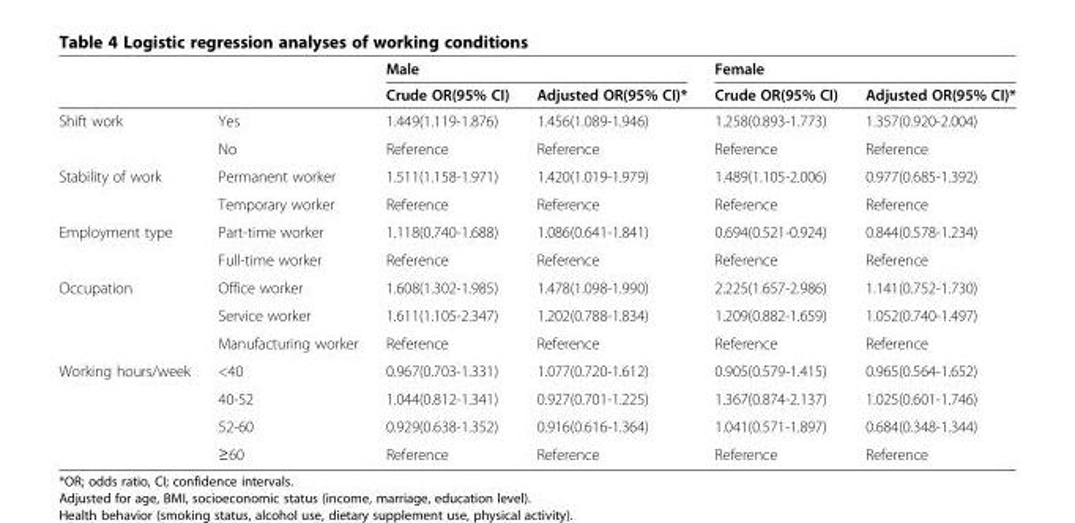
<table><thead><tr><td rowspan="2"></td><td rowspan="2"></td><td colspan="2">Male</td><td colspan="2">Female</td></tr><tr><td>Crude OR(95% CI)</td><td>Adjusted OR(95% CI)*</td><td>Crude OR(95% CI)</td><td>Adjusted OR(95% CI)*</td></tr></thead><tbody><tr><td rowspan="2">Shift work</td><td>Yes</td><td>1.449(1.119-1.876)</td><td>1.456(1.089-1.946)</td><td>1.258(0.893-1.773)</td><td>1.357(0.920-2.004)</td></tr><tr><td>No</td><td>Reference</td><td>Reference</td><td>Reference</td><td>Reference</td></tr><tr><td rowspan="2">Stability of work</td><td>Permanent worker</td><td>1.511(1.158-1.971)</td><td>1.420(1.019-1.979)</td><td>1.489(1.105-2.006)</td><td>0.977(0.685-1.392)</td></tr><tr><td>Temporary worker</td><td>Reference</td><td>Reference</td><td>Reference</td><td>Reference</td></tr><tr><td rowspan="2">Employment type</td><td>Part-time worker</td><td>1.118(0.740-1.688)</td><td>1.086(0.641-1.841)</td><td>0.694(0.521-0.924)</td><td>0.844(0.578-1.234)</td></tr><tr><td>Full-time worker</td><td>Reference</td><td>Reference</td><td>Reference</td><td>Reference</td></tr><tr><td rowspan="3">Occupation</td><td>Office worker</td><td>1.608(1.302-1.985)</td><td>1.478(1.098-1.990)</td><td>2.225(1.657-2.986)</td><td>1.141(0.752-1.730)</td></tr><tr><td>Service worker</td><td>1.611(1.105-2.347)</td><td>1.202(0.788-1.834)</td><td>1.209(0.882-1.659)</td><td>1.052(0.740-1.497)</td></tr><tr><td>Manufacturing worker</td><td>Reference</td><td>Reference</td><td>Reference</td><td>Reference</td></tr><tr><td rowspan="4">Working hours/week</td><td>&lt;40</td><td>0.967(0.703-1.331)</td><td>1.077(0.720-1.612)</td><td>0.905(0.579-1.415)</td><td>0.965(0.564-1.652)</td></tr><tr><td>40-52</td><td>1.044(0.812-1.341)</td><td>0.927(0.701-1.225)</td><td>1.367(0.874-2.137)</td><td>1.025(0.601-1.746)</td></tr><tr><td>52-60</td><td>0.929(0.638-1.352)</td><td>0.916(0.616-1.364)</td><td>1.041(0.571-1.897)</td><td>0.684(0.348-1.344)</td></tr><tr><td>≥60</td><td>Reference</td><td>Reference</td><td>Reference</td><td>Reference</td></tr></tbody></table>